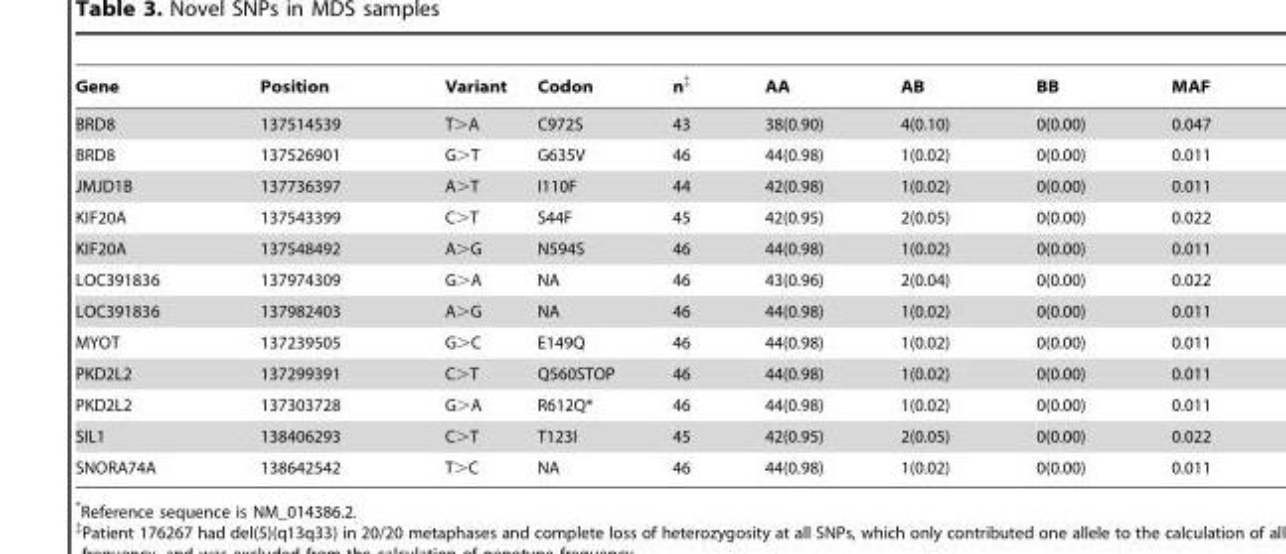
<table><thead><tr><td>Gene</td><td>Position</td><td>Variant</td><td>Codon</td><td>n‡</td><td>AA</td><td>AB</td><td>BB</td><td>MAF</td></tr></thead><tbody><tr><td>BRD8</td><td>137514539</td><td>T&gt;A</td><td>C972S</td><td>43</td><td>38(0.90)</td><td>4(0.10)</td><td>0(0.00)</td><td>0.047</td></tr><tr><td>BRD8</td><td>137526901</td><td>G&gt;T</td><td>G635V</td><td>46</td><td>44(0.98)</td><td>1(0.02)</td><td>0(0.00)</td><td>0.011</td></tr><tr><td>JMJD1B</td><td>137736397</td><td>A&gt;T</td><td>I110F</td><td>44</td><td>42(0.98)</td><td>1(0.02)</td><td>0(0.00)</td><td>0.011</td></tr><tr><td>KIF20A</td><td>137543399</td><td>C&gt;T</td><td>S44F</td><td>45</td><td>42(0.95)</td><td>2(0.05)</td><td>0(0.00)</td><td>0.022</td></tr><tr><td>KIF20A</td><td>137548492</td><td>A&gt;G</td><td>N594S</td><td>46</td><td>44(0.98)</td><td>1(0.02)</td><td>0(0.00)</td><td>0.011</td></tr><tr><td>LOC391836</td><td>137974309</td><td>G&gt;A</td><td>NA</td><td>46</td><td>43(0.96)</td><td>2(0.04)</td><td>0(0.00)</td><td>0.022</td></tr><tr><td>LOC391836</td><td>137982403</td><td>A&gt;G</td><td>NA</td><td>46</td><td>44(0.98)</td><td>1(0.02)</td><td>0(0.00)</td><td>0.011</td></tr><tr><td>MYOT</td><td>137239505</td><td>G&gt;C</td><td>E149Q</td><td>46</td><td>44(0.98)</td><td>1(0.02)</td><td>0(0.00)</td><td>0.011</td></tr><tr><td>PKD2L2</td><td>137299391</td><td>C&gt;T</td><td>Q560STOP</td><td>46</td><td>44(0.98)</td><td>1(0.02)</td><td>0(0.00)</td><td>0.011</td></tr><tr><td>PKD2L2</td><td>137303728</td><td>G&gt;A</td><td>R612Q*</td><td>46</td><td>44(0.98)</td><td>1(0.02)</td><td>0(0.00)</td><td>0.011</td></tr><tr><td>SIL1</td><td>138406293</td><td>C&gt;T</td><td>T123I</td><td>45</td><td>42(0.95)</td><td>2(0.05)</td><td>0(0.00)</td><td>0.022</td></tr><tr><td>SNORA74A</td><td>138642542</td><td>T&gt;C</td><td>NA</td><td>46</td><td>44(0.98)</td><td>1(0.02)</td><td>0(0.00)</td><td>0.011</td></tr></tbody></table>